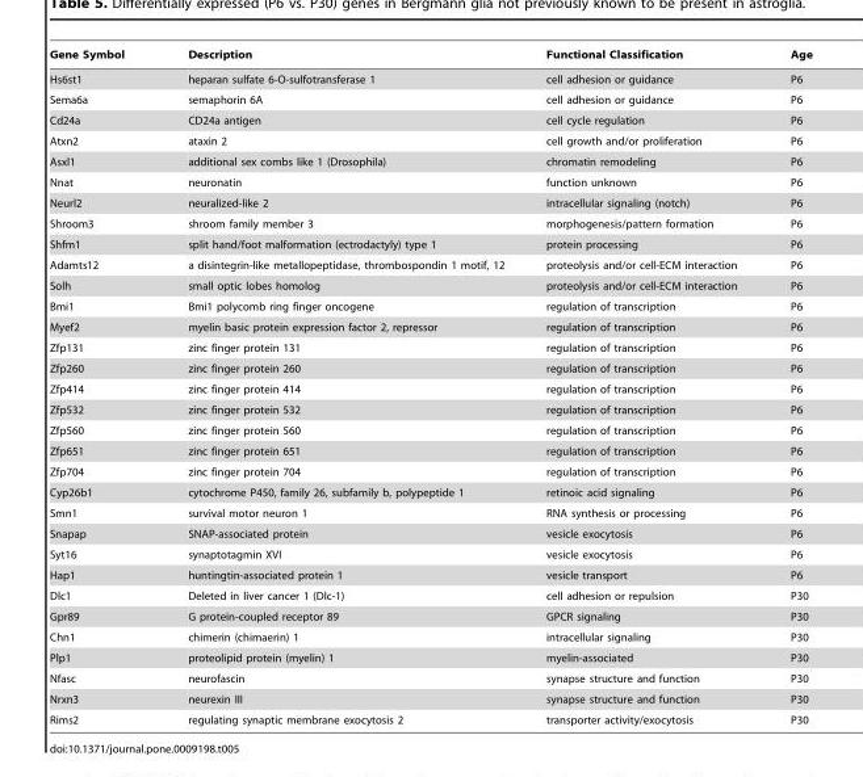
<table><thead><tr><td>Gene Symbol</td><td>Description</td><td>Functional Classification</td><td>Age</td></tr></thead><tbody><tr><td>Hs6st1</td><td>heparan sulfate 6-O-sulfotransferase 1</td><td>cell adhesion or guidance</td><td>P6</td></tr><tr><td>Sema6a</td><td>semaphorin 6A</td><td>cell adhesion or guidance</td><td>P6</td></tr><tr><td>Cd24a</td><td>CD24a antigen</td><td>cell cycle regulation</td><td>P6</td></tr><tr><td>Atxn2</td><td>ataxin 2</td><td>cell growth and/or proliferation</td><td>P6</td></tr><tr><td>Asxl1</td><td>additional sex combs like 1 (Drosophila)</td><td>chromatin remodeling</td><td>P6</td></tr><tr><td>Nnat</td><td>neuronatin</td><td>function unknown</td><td>P6</td></tr><tr><td>Neurl2</td><td>neuralized-like 2</td><td>intracellular signaling (notch)</td><td>P6</td></tr><tr><td>Shroom3</td><td>shroom family member 3</td><td>morphogenesis/pattern formation</td><td>P6</td></tr><tr><td>Shfm1</td><td>split hand/foot malformation (ectrodactyly) type 1</td><td>protein processing</td><td>P6</td></tr><tr><td>Adamts12</td><td>a disintegrin-like metallopeptidase, thrombospondin 1 motif, 12</td><td>proteolysis and/or cell-ECM interaction</td><td>P6</td></tr><tr><td>Solh</td><td>small optic lobes homolog</td><td>proteolysis and/or cell-ECM interaction</td><td>P6</td></tr><tr><td>Bmi1</td><td>Bmi1 polycomb ring finger oncogene</td><td>regulation of transcription</td><td>P6</td></tr><tr><td>Myef2</td><td>myelin basic protein expression factor 2, repressor</td><td>regulation of transcription</td><td>P6</td></tr><tr><td>Zfp131</td><td>zinc finger protein 131</td><td>regulation of transcription</td><td>P6</td></tr><tr><td>Zfp260</td><td>zinc finger protein 260</td><td>regulation of transcription</td><td>P6</td></tr><tr><td>Zfp414</td><td>zinc finger protein 414</td><td>regulation of transcription</td><td>P6</td></tr><tr><td>Zfp532</td><td>zinc finger protein 532</td><td>regulation of transcription</td><td>P6</td></tr><tr><td>Zfp560</td><td>zinc finger protein 560</td><td>regulation of transcription</td><td>P6</td></tr><tr><td>Zfp651</td><td>zinc finger protein 651</td><td>regulation of transcription</td><td>P6</td></tr><tr><td>Zfp704</td><td>zinc finger protein 704</td><td>regulation of transcription</td><td>P6</td></tr><tr><td>Cyp26b1</td><td>cytochrome P450, family 26, subfamily b, polypeptide 1</td><td>retinoic acid signaling</td><td>P6</td></tr><tr><td>Smn1</td><td>survival motor neuron 1</td><td>RNA synthesis or processing</td><td>P6</td></tr><tr><td>Snapap</td><td>SNAP-associated protein</td><td>vesicle exocytosis</td><td>P6</td></tr><tr><td>Syt16</td><td>synaptotagmin XVI</td><td>vesicle exocytosis</td><td>P6</td></tr><tr><td>Hap1</td><td>huntingtin-associated protein 1</td><td>vesicle transport</td><td>P6</td></tr><tr><td>Dlc1</td><td>Deleted in liver cancer 1 (Dlc-1)</td><td>cell adhesion or repulsion</td><td>P30</td></tr><tr><td>Gpr89</td><td>G protein-coupled receptor 89</td><td>GPCR signaling</td><td>P30</td></tr><tr><td>Chn1</td><td>chimerin (chimaerin) 1</td><td>intracellular signaling</td><td>P30</td></tr><tr><td>Plp1</td><td>proteolipid protein (myelin) 1</td><td>myelin-associated</td><td>P30</td></tr><tr><td>Nfasc</td><td>neurofascin</td><td>synapse structure and function</td><td>P30</td></tr><tr><td>Nrxn3</td><td>neurexin III</td><td>synapse structure and function</td><td>P30</td></tr><tr><td>Rims2</td><td>regulating synaptic membrane exocytosis 2</td><td>transporter activity/exocytosis</td><td>P30</td></tr></tbody></table>